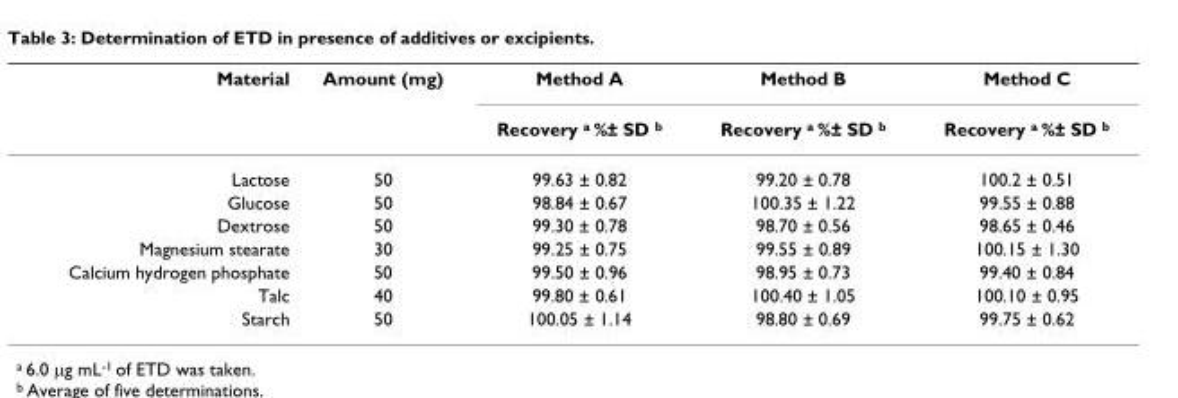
<table><thead><tr><td rowspan="2">Material</td><td rowspan="2">Amount (mg)</td><td rowspan="2">Method A Recovery <sup>a</sup> %± SD <sup>b</sup></td><td rowspan="2">Method B Recovery <sup>a</sup> %± SD <sup>b</sup></td><td rowspan="2">Method C Recovery <sup>a</sup> %± SD <sup>b</sup></td></tr><tr></tr></thead><tbody><tr><td>Lactose</td><td>50</td><td>99.63 ± 0.82</td><td>99.20 ± 0.78</td><td>100.2 ± 0.51</td></tr><tr><td>Glucose</td><td>50</td><td>98.84 ± 0.67</td><td>100.35 ± 1.22</td><td>99.55 ± 0.88</td></tr><tr><td>Dextrose</td><td>50</td><td>99.30 ± 0.78</td><td>98.70 ± 0.56</td><td>98.65 ± 0.46</td></tr><tr><td>Magnesium stearate</td><td>30</td><td>99.25 ± 0.75</td><td>99.55 ± 0.89</td><td>100.15 ± 1.30</td></tr><tr><td>Calcium hydrogen phosphate</td><td>50</td><td>99.50 ± 0.96</td><td>98.95 ± 0.73</td><td>99.40 ± 0.84</td></tr><tr><td>Talc</td><td>40</td><td>99.80 ± 0.61</td><td>100.40 ± 1.05</td><td>100.10 ± 0.95</td></tr><tr><td>Starch</td><td>50</td><td>100.05 ± 1.14</td><td>98.80 ± 0.69</td><td>99.75 ± 0.62</td></tr></tbody></table>